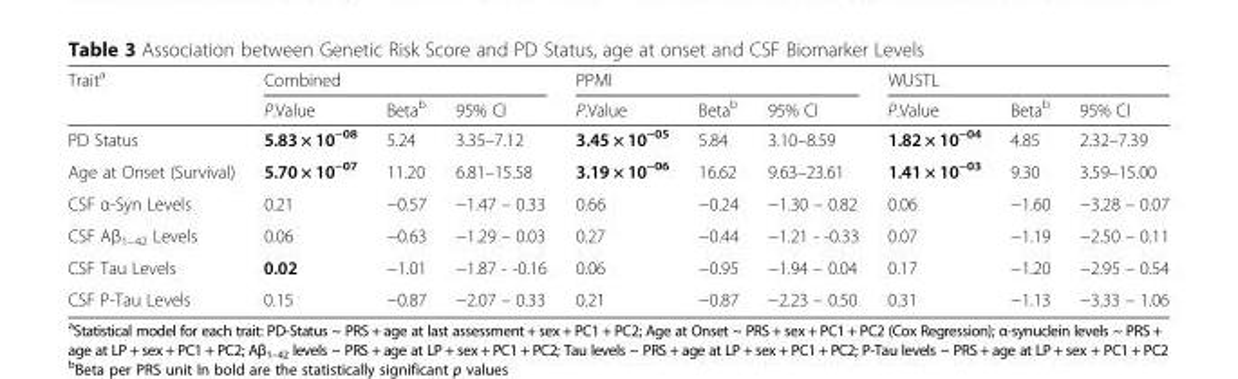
<table><thead><tr><td rowspan="2">Trait<sup>a</sup></td><td colspan="3">Combined</td><td colspan="3">PPMI</td><td colspan="3">WUSTL</td></tr><tr><td>P.Value</td><td>Beta<sup>b</sup></td><td>95% CI</td><td>P.Value</td><td>Beta<sup>b</sup></td><td>95% CI</td><td>P.Value</td><td>Beta<sup>b</sup></td><td>95% CI</td></tr></thead><tbody><tr><td>PD Status</td><td>5.83 × 10<sup>−08</sup></td><td>5.24</td><td>3.35–7.12</td><td>3.45 × 10<sup>−05</sup></td><td>5.84</td><td>3.10–8.59</td><td>1.82 × 10<sup>−04</sup></td><td>4.85</td><td>2.32–7.39</td></tr><tr><td>Age at Onset (Survival)</td><td>5.70 × 10<sup>−07</sup></td><td>11.20</td><td>6.81–15.58</td><td>3.19 × 10<sup>−06</sup></td><td>16.62</td><td>9.63–23.61</td><td>1.41 × 10<sup>−03</sup></td><td>9.30</td><td>3.59–15.00</td></tr><tr><td>CSF α-Syn Levels</td><td>0.21</td><td>−0.57</td><td>−1.47 – 0.33</td><td>0.66</td><td>−0.24</td><td>−1.30 – 0.82</td><td>0.06</td><td>−1.60</td><td>−3.28 – 0.07</td></tr><tr><td>CSF Aβ<sub>1–42</sub> Levels</td><td>0.06</td><td>−0.63</td><td>−1.29 – 0.03</td><td>0.27</td><td>−0.44</td><td>−1.21 - -0.33</td><td>0.07</td><td>−1.19</td><td>−2.50 – 0.11</td></tr><tr><td>CSF Tau Levels</td><td>0.02</td><td>−1.01</td><td>−1.87 - -0.16</td><td>0.06</td><td>−0.95</td><td>−1.94 – 0.04</td><td>0.17</td><td>−1.20</td><td>−2.95 – 0.54</td></tr><tr><td>CSF P-Tau Levels</td><td>0.15</td><td>−0.87</td><td>−2.07 – 0.33</td><td>0.21</td><td>−0.87</td><td>−2.23 – 0.50</td><td>0.31</td><td>−1.13</td><td>−3.33 – 1.06</td></tr></tbody></table>